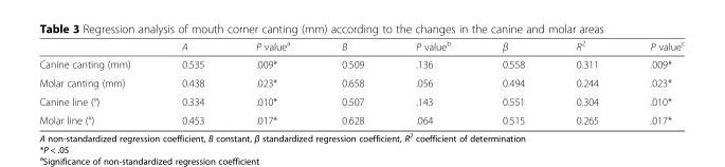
<table><thead><tr><td></td><td>A</td><td>P value<sup>a</sup></td><td>B</td><td>P value<sup>b</sup></td><td>β</td><td>R<sup>2</sup></td><td>P value<sup>c</sup></td></tr></thead><tbody><tr><td>Canine canting (mm)</td><td>0.535</td><td>.009*</td><td>0.509</td><td>.136</td><td>0.558</td><td>0.311</td><td>.009*</td></tr><tr><td>Molar canting (mm)</td><td>0.438</td><td>.023*</td><td>0.658</td><td>.056</td><td>0.494</td><td>0.244</td><td>.023*</td></tr><tr><td>Canine line (°)</td><td>0.334</td><td>.010*</td><td>0.507</td><td>.143</td><td>0.551</td><td>0.304</td><td>.010*</td></tr><tr><td>Molar line (°)</td><td>0.453</td><td>.017*</td><td>0.628</td><td>.064</td><td>0.515</td><td>0.265</td><td>.017*</td></tr></tbody></table>